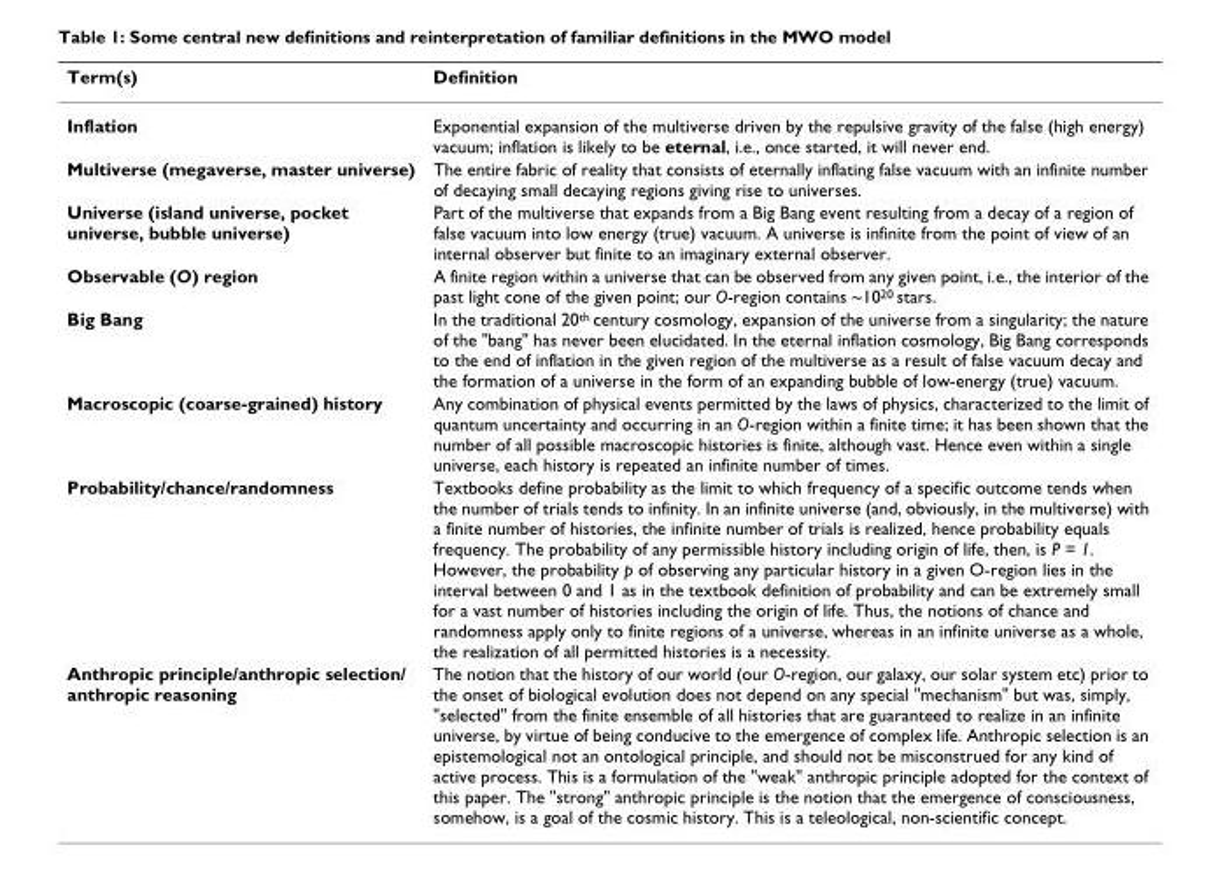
<table><thead><tr><td>Term(s)</td><td>Definition</td></tr></thead><tbody><tr><td>Inflation</td><td>Exponential expansion of the multiverse driven by the repulsive gravity of the false (high energy) vacuum; inflation is likely to be eternal, i.e., once started, it will never end.</td></tr><tr><td>Multiverse (megaverse, master universe)</td><td>The entire fabric of reality that consists of eternally inflating false vacuum with an infinite number of decaying small decaying regions giving rise to universes.</td></tr><tr><td>Universe (island universe, pocket universe, bubble universe)</td><td>Part of the multiverse that expands from a Big Bang event resulting from a decay of a region of false vacuum into low energy (true) vacuum. A universe is infinite from the point of view of an internal observer but finite to an imaginary external observer.</td></tr><tr><td>Observable (O) region</td><td>A finite region within a universe that can be observed from any given point, i.e., the interior of the past light cone of the given point; our O-region contains ~10<sup>20</sup> stars.</td></tr><tr><td>Big Bang</td><td>In the traditional 20<sup>th</sup> century cosmology, expansion of the universe from a singularity; the nature of the &quot;bang&quot; has never been elucidated. In the eternal inflation cosmology, Big Bang corresponds to the end of inflation in the given region of the multiverse as a result of false vacuum decay and the formation of a universe in the form of an expanding bubble of low-energy (true) vacuum.</td></tr><tr><td>Macroscopic (coarse-grained) history</td><td>Any combination of physical events permitted by the laws of physics, characterized to the limit of quantum uncertainty and occurring in an O-region within a finite time; it has been shown that the number of all possible macroscopic histories is finite, although vast. Hence even within a single universe, each history is repeated an infinite number of times.</td></tr><tr><td>Probability/chance/randomness</td><td>Textbooks define probability as the limit to which frequency of a specific outcome tends when the number of trials tends to infinity. In an infinite universe (and, obviously, in the multiverse) with a finite number of histories, the infinite number of trials is realized, hence probability equals frequency. The probability of any permissible history including origin of life, then, is P = 1. However, the probability p of observing any particular history in a given O-region lies in the interval between 0 and 1 as in the textbook definition of probability and can be extremely small for a vast number of histories including the origin of life. Thus, the notions of chance and randomness apply only to finite regions of a universe, whereas in an infinite universe as a whole, the realization of all permitted histories is a necessity.</td></tr><tr><td>Anthropic principle/anthropic selection/ anthropic reasoning</td><td>The notion that the history of our world (our O-region, our galaxy, our solar system etc) prior to the onset of biological evolution does not depend on any special &quot;mechanism&quot; but was, simply, &quot;selected&quot; from the finite ensemble of all histories that are guaranteed to realize in an infinite universe, by virtue of being conducive to the emergence of complex life. Anthropic selection is an epistemological not an ontological principle, and should not be misconstrued for any kind of active process. This is a formulation of the &quot;weak&quot; anthropic principle adopted for the context of this paper. The &quot;strong&quot; anthropic principle is the notion that the emergence of consciousness, somehow, is a goal of the cosmic history. This is a teleological, non-scientific concept.</td></tr></tbody></table>